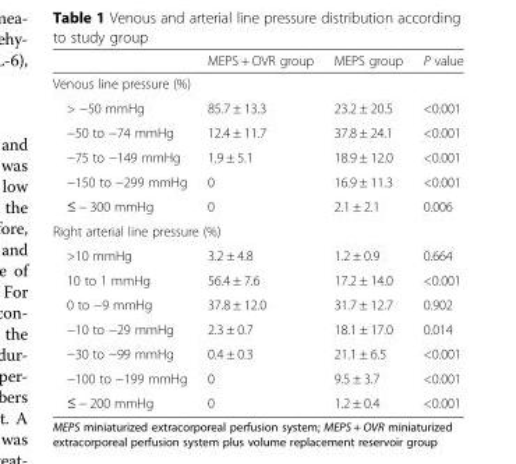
<table><thead><tr><td></td><td>MEPS + OVR group</td><td>MEPS group</td><td>P value</td></tr></thead><tbody><tr><td colspan="4">Venous line pressure (%)</td></tr><tr><td>&gt; −50 mmHg</td><td>85.7 ± 13.3</td><td>23.2 ± 20.5</td><td>&lt;0.001</td></tr><tr><td>−50 to −74 mmHg</td><td>12.4 ± 11.7</td><td>37.8 ± 24.1</td><td>&lt;0.001</td></tr><tr><td>−75 to −149 mmHg</td><td>1.9 ± 5.1</td><td>18.9 ± 12.0</td><td>&lt;0.001</td></tr><tr><td>−150 to −299 mmHg</td><td>0</td><td>16.9 ± 11.3</td><td>&lt;0.001</td></tr><tr><td>≤ − 300 mmHg</td><td>0</td><td>2.1 ± 2.1</td><td>0.006</td></tr><tr><td colspan="4">Right arterial line pressure (%)</td></tr><tr><td>&gt;10 mmHg</td><td>3.2 ± 4.8</td><td>1.2 ± 0.9</td><td>0.664</td></tr><tr><td>10 to 1 mmHg</td><td>56.4 ± 7.6</td><td>17.2 ± 14.0</td><td>&lt;0.001</td></tr><tr><td>0 to −9 mmHg</td><td>37.8 ± 12.0</td><td>31.7 ± 12.7</td><td>0.902</td></tr><tr><td>−10 to −29 mmHg</td><td>2.3 ± 0.7</td><td>18.1 ± 17.0</td><td>0.014</td></tr><tr><td>−30 to −99 mmHg</td><td>0.4 ± 0.3</td><td>21.1 ± 6.5</td><td>&lt;0.001</td></tr><tr><td>−100 to −199 mmHg</td><td>0</td><td>9.5 ± 3.7</td><td>&lt;0.001</td></tr><tr><td>≤ − 200 mmHg</td><td>0</td><td>1.2 ± 0.4</td><td>&lt;0.001</td></tr></tbody></table>